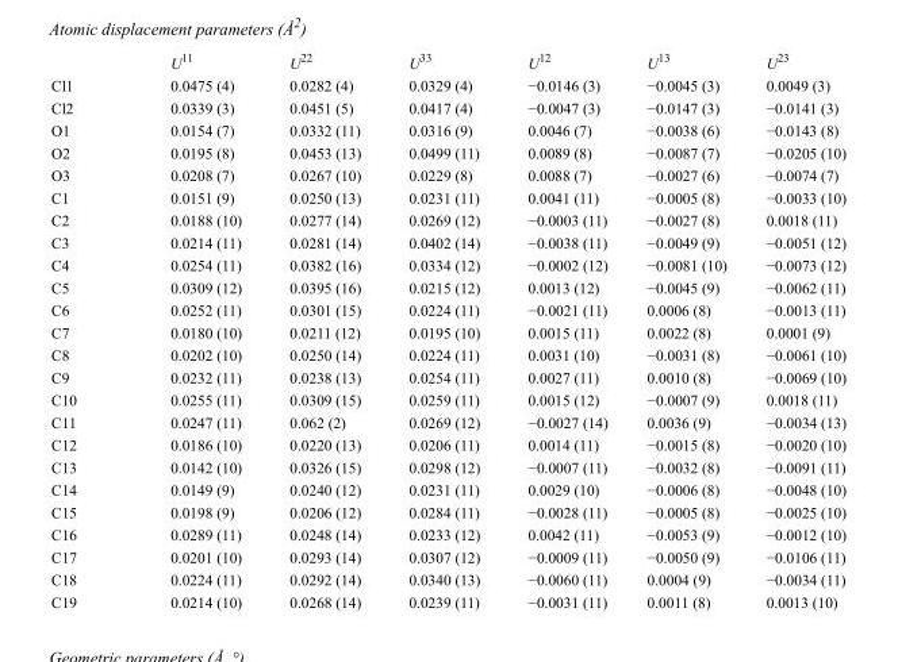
<table><thead><tr><td></td><td>U<sup>11</sup></td><td>U<sup>22</sup></td><td>U<sup>33</sup></td><td>U<sup>12</sup></td><td>U<sup>13</sup></td><td>U<sup>23</sup></td></tr></thead><tbody><tr><td>Cl1</td><td>0.0475 (4)</td><td>0.0282 (4)</td><td>0.0329 (4)</td><td>−0.0146 (3)</td><td>−0.0045 (3)</td><td>0.0049 (3)</td></tr><tr><td>Cl2</td><td>0.0339 (3)</td><td>0.0451 (5)</td><td>0.0417 (4)</td><td>−0.0047 (3)</td><td>−0.0147 (3)</td><td>−0.0141 (3)</td></tr><tr><td>O1</td><td>0.0154 (7)</td><td>0.0332 (11)</td><td>0.0316 (9)</td><td>0.0046 (7)</td><td>−0.0038 (6)</td><td>−0.0143 (8)</td></tr><tr><td>O2</td><td>0.0195 (8)</td><td>0.0453 (13)</td><td>0.0499 (11)</td><td>0.0089 (8)</td><td>−0.0087 (7)</td><td>−0.0205 (10)</td></tr><tr><td>O3</td><td>0.0208 (7)</td><td>0.0267 (10)</td><td>0.0229 (8)</td><td>0.0088 (7)</td><td>−0.0027 (6)</td><td>−0.0074 (7)</td></tr><tr><td>C1</td><td>0.0151 (9)</td><td>0.0250 (13)</td><td>0.0231 (11)</td><td>0.0041 (11)</td><td>−0.0005 (8)</td><td>−0.0033 (10)</td></tr><tr><td>C2</td><td>0.0188 (10)</td><td>0.0277 (14)</td><td>0.0269 (12)</td><td>−0.0003 (11)</td><td>−0.0027 (8)</td><td>0.0018 (11)</td></tr><tr><td>C3</td><td>0.0214 (11)</td><td>0.0281 (14)</td><td>0.0402 (14)</td><td>−0.0038 (11)</td><td>−0.0049 (9)</td><td>−0.0051 (12)</td></tr><tr><td>C4</td><td>0.0254 (11)</td><td>0.0382 (16)</td><td>0.0334 (12)</td><td>−0.0002 (12)</td><td>−0.0081 (10)</td><td>−0.0073 (12)</td></tr><tr><td>C5</td><td>0.0309 (12)</td><td>0.0395 (16)</td><td>0.0215 (12)</td><td>0.0013 (12)</td><td>−0.0045 (9)</td><td>−0.0062 (11)</td></tr><tr><td>C6</td><td>0.0252 (11)</td><td>0.0301 (15)</td><td>0.0224 (11)</td><td>−0.0021 (11)</td><td>0.0006 (8)</td><td>−0.0013 (11)</td></tr><tr><td>C7</td><td>0.0180 (10)</td><td>0.0211 (12)</td><td>0.0195 (10)</td><td>0.0015 (11)</td><td>0.0022 (8)</td><td>0.0001 (9)</td></tr><tr><td>C8</td><td>0.0202 (10)</td><td>0.0250 (14)</td><td>0.0224 (11)</td><td>0.0031 (10)</td><td>−0.0031 (8)</td><td>−0.0061 (10)</td></tr><tr><td>C9</td><td>0.0232 (11)</td><td>0.0238 (13)</td><td>0.0254 (11)</td><td>0.0027 (11)</td><td>0.0010 (8)</td><td>−0.0069 (10)</td></tr><tr><td>C10</td><td>0.0255 (11)</td><td>0.0309 (15)</td><td>0.0259 (11)</td><td>0.0015 (12)</td><td>−0.0007 (9)</td><td>0.0018 (11)</td></tr><tr><td>C11</td><td>0.0247 (11)</td><td>0.062 (2)</td><td>0.0269 (12)</td><td>−0.0027 (14)</td><td>0.0036 (9)</td><td>−0.0034 (13)</td></tr><tr><td>C12</td><td>0.0186 (10)</td><td>0.0220 (13)</td><td>0.0206 (11)</td><td>0.0014 (11)</td><td>−0.0015 (8)</td><td>−0.0020 (10)</td></tr><tr><td>C13</td><td>0.0142 (10)</td><td>0.0326 (15)</td><td>0.0298 (12)</td><td>−0.0007 (11)</td><td>−0.0032 (8)</td><td>−0.0091 (11)</td></tr><tr><td>C14</td><td>0.0149 (9)</td><td>0.0240 (12)</td><td>0.0231 (11)</td><td>0.0029 (10)</td><td>−0.0006 (8)</td><td>−0.0048 (10)</td></tr><tr><td>C15</td><td>0.0198 (9)</td><td>0.0206 (12)</td><td>0.0284 (11)</td><td>−0.0028 (11)</td><td>−0.0005 (8)</td><td>−0.0025 (10)</td></tr><tr><td>C16</td><td>0.0289 (11)</td><td>0.0248 (14)</td><td>0.0233 (12)</td><td>0.0042 (11)</td><td>−0.0053 (9)</td><td>−0.0012 (10)</td></tr><tr><td>C17</td><td>0.0201 (10)</td><td>0.0293 (14)</td><td>0.0307 (12)</td><td>−0.0009 (11)</td><td>−0.0050 (9)</td><td>−0.0106 (11)</td></tr><tr><td>C18</td><td>0.0224 (11)</td><td>0.0292 (14)</td><td>0.0340 (13)</td><td>−0.0060 (11)</td><td>0.0004 (9)</td><td>−0.0034 (11)</td></tr><tr><td>C19</td><td>0.0214 (10)</td><td>0.0268 (14)</td><td>0.0239 (11)</td><td>−0.0031 (11)</td><td>0.0011 (8)</td><td>0.0013 (10)</td></tr></tbody></table>